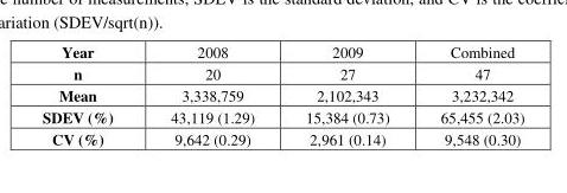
<table><tbody><tr><td>Year</td><td>2008</td><td>2009</td><td>Combined</td></tr><tr><td>n</td><td>20</td><td>27</td><td>47</td></tr><tr><td>Mean</td><td>3,338,759</td><td>2,102,343</td><td>3,232,342</td></tr><tr><td>SDEV (%)</td><td>43,119 (1.29)</td><td>15,384 (0.73)</td><td>65,455 (2.03)</td></tr><tr><td>CV (%)</td><td>9,642 (0.29)</td><td>2,961 (0.14)</td><td>9,548 (0.30)</td></tr></tbody></table>